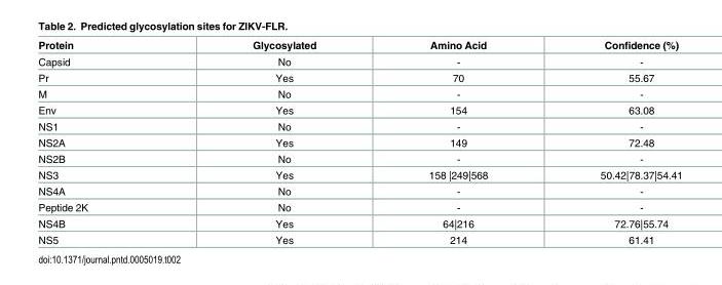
<table><thead><tr><td>Protein</td><td>Glycosylated</td><td>Amino Acid</td><td>Confidence (%)</td></tr></thead><tbody><tr><td>Capsid</td><td>No</td><td>-</td><td>-</td></tr><tr><td>Pr</td><td>Yes</td><td>70</td><td>55.67</td></tr><tr><td>M</td><td>No</td><td>-</td><td>-</td></tr><tr><td>Env</td><td>Yes</td><td>154</td><td>63.08</td></tr><tr><td>NS1</td><td>No</td><td>-</td><td>-</td></tr><tr><td>NS2A</td><td>Yes</td><td>149</td><td>72.48</td></tr><tr><td>NS2B</td><td>No</td><td>-</td><td>-</td></tr><tr><td>NS3</td><td>Yes</td><td>158 |249|568</td><td>50.42|78.37|54.41</td></tr><tr><td>NS4A</td><td>No</td><td>-</td><td>-</td></tr><tr><td>Peptide 2K</td><td>No</td><td>-</td><td>-</td></tr><tr><td>NS4B</td><td>Yes</td><td>64|216</td><td>72.76|55.74</td></tr><tr><td>NS5</td><td>Yes</td><td>214</td><td>61.41</td></tr></tbody></table>